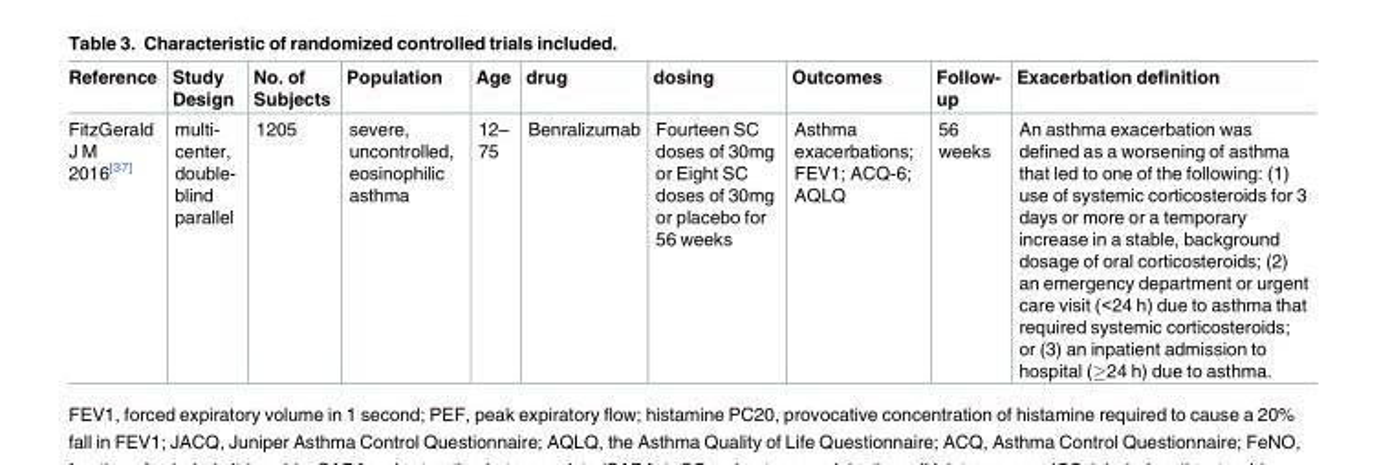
<table><thead><tr><td>Reference</td><td>Study Design</td><td>No. of Subjects</td><td>Population</td><td>Age</td><td>drug</td><td>dosing</td><td>Outcomes</td><td>Follow- up</td><td>Exacerbation definition</td></tr></thead><tbody><tr><td>FitzGerald J M 2016<sup>[37]</sup></td><td>multi- center, double- blind parallel</td><td>1205</td><td>severe, uncontrolled, eosinophilic asthma</td><td>12– 75</td><td>Benralizumab</td><td>Fourteen SC doses of 30mg or Eight SC doses of 30mg or placebo for 56 weeks</td><td>Asthma exacerbations; FEV1; ACQ-6; AQLQ</td><td>56 weeks</td><td>An asthma exacerbation was defined as a worsening of asthma that led to one of the following: (1) use of systemic corticosteroids for 3 days or more or a temporary increase in a stable, background dosage of oral corticosteroids; (2) an emergency department or urgent care visit (&lt;24 h) due to asthma that required systemic corticosteroids; or (3) an inpatient admission to hospital (≥24 h) due to asthma.</td></tr></tbody></table>